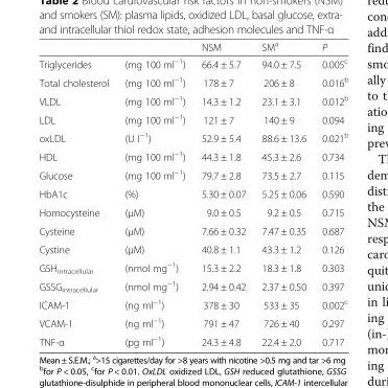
<table><thead><tr><td></td><td></td><td>NSM</td><td>SM<sup>a</sup></td><td>P</td></tr></thead><tbody><tr><td>Triglycerides</td><td>(mg 100 ml<sup>−1</sup>)</td><td>66.4 ± 5.7</td><td>94.0 ± 7.5</td><td>0.005<sup>c</sup></td></tr><tr><td>Total cholesterol</td><td>(mg 100 ml<sup>−1</sup>)</td><td>178 ± 7</td><td>206 ± 8</td><td>0.016<sup>b</sup></td></tr><tr><td>VLDL</td><td>(mg 100 ml<sup>−1</sup>)</td><td>14.3 ± 1.2</td><td>23.1 ± 3.1</td><td>0.012<sup>b</sup></td></tr><tr><td>LDL</td><td>(mg 100 ml<sup>−1</sup>)</td><td>121 ± 7</td><td>140 ± 9</td><td>0.094</td></tr><tr><td>oxLDL</td><td>(U l<sup>−1</sup>)</td><td>52.9 ± 5.4</td><td>88.6 ± 13.6</td><td>0.021<sup>b</sup></td></tr><tr><td>HDL</td><td>(mg 100 ml<sup>−1</sup>)</td><td>44.3 ± 1.8</td><td>45.3 ± 2.6</td><td>0.734</td></tr><tr><td>Glucose</td><td>(mg 100 ml<sup>−1</sup>)</td><td>79.7 ± 2.8</td><td>73.5 ± 2.7</td><td>0.115</td></tr><tr><td>HbA1c</td><td>(%)</td><td>5.30 ± 0.07</td><td>5.25 ± 0.06</td><td>0.590</td></tr><tr><td>Homocysteine</td><td>(μM)</td><td>9.0 ± 0.5</td><td>9.2 ± 0.5</td><td>0.715</td></tr><tr><td>Cysteine</td><td>(μM)</td><td>7.66 ± 0.32</td><td>7.47 ± 0.35</td><td>0.687</td></tr><tr><td>Cystine</td><td>(μM)</td><td>40.8 ± 1.1</td><td>43.3 ± 1.2</td><td>0.126</td></tr><tr><td>GSH<sub>intracellular</sub></td><td>(nmol mg<sup>−1</sup>)</td><td>15.3 ± 2.2</td><td>18.3 ± 1.8</td><td>0.303</td></tr><tr><td>GSSG<sub>intracellular</sub></td><td>(nmol mg<sup>−1</sup>)</td><td>2.94 ± 0.42</td><td>2.37 ± 0.50</td><td>0.397</td></tr><tr><td>ICAM-1</td><td>(ng ml<sup>−1</sup>)</td><td>378 ± 30</td><td>533 ± 35</td><td>0.002<sup>c</sup></td></tr><tr><td>VCAM-1</td><td>(ng ml<sup>−1</sup>)</td><td>791 ± 47</td><td>726 ± 40</td><td>0.297</td></tr><tr><td>TNF-α</td><td>(pg ml<sup>−1</sup>)</td><td>24.3 ± 4.8</td><td>22.4 ± 2.0</td><td>0.717</td></tr></tbody></table>